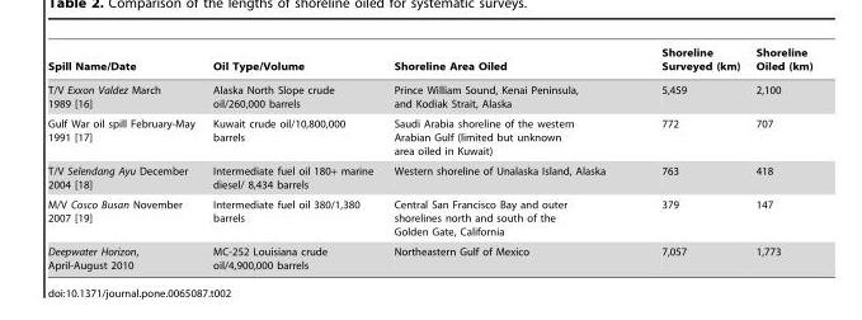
<table><thead><tr><td>Spill Name/Date</td><td>Oil Type/Volume</td><td>Shoreline Area Oiled</td><td>Shoreline Surveyed (km)</td><td>Shoreline Oiled (km)</td></tr></thead><tbody><tr><td>T/V Exxon Valdez March 1989 [16]</td><td>Alaska North Slope crude oil/260,000 barrels</td><td>Prince William Sound, Kenai Peninsula, and Kodiak Strait, Alaska</td><td>5,459</td><td>2,100</td></tr><tr><td>Gulf War oil spill February-May 1991 [17]</td><td>Kuwait crude oil/10,800,000 barrels</td><td>Saudi Arabia shoreline of the western Arabian Gulf (limited but unknown area oiled in Kuwait)</td><td>772</td><td>707</td></tr><tr><td>T/V Selendang Ayu December 2004 [18]</td><td>Intermediate fuel oil 180+ marine diesel/ 8,434 barrels</td><td>Western shoreline of Unalaska Island, Alaska</td><td>763</td><td>418</td></tr><tr><td>M/V Cosco Busan November 2007 [19]</td><td>Intermediate fuel oil 380/1,380 barrels</td><td>Central San Francisco Bay and outer shorelines north and south of the Golden Gate, California</td><td>379</td><td>147</td></tr><tr><td>Deepwater Horizon, April-August 2010</td><td>MC-252 Louisiana crude oil/4,900,000 barrels</td><td>Northeastern Gulf of Mexico</td><td>7,057</td><td>1,773</td></tr></tbody></table>